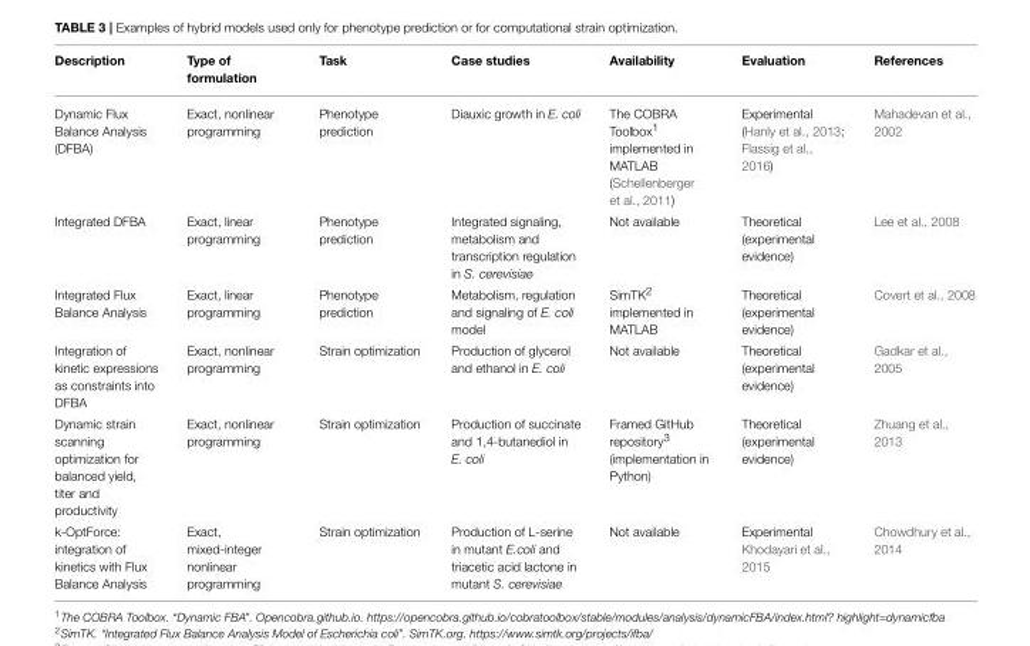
<table><thead><tr><td>Description</td><td>Type of formulation</td><td>Task</td><td>Case studies</td><td>Availability</td><td>Evaluation</td><td>References</td></tr></thead><tbody><tr><td>Dynamic Flux Balance Analysis (DFBA)</td><td>Exact, nonlinear programming</td><td>Phenotype prediction</td><td>Diauxic growth in E. coli</td><td>The COBRA Toolbox<sup>1</sup> implemented in MATLAB (Schellenberger et al., 2011)</td><td>Experimental (Hanly et al., 2013; Flassig et al., 2016)</td><td>Mahadevan et al., 2002</td></tr><tr><td>Integrated DFBA</td><td>Exact, linear programming</td><td>Phenotype prediction</td><td>Integrated signaling, metabolism and transcription regulation in S. cerevisiae</td><td>Not available</td><td>Theoretical (experimental evidence)</td><td>Lee et al., 2008</td></tr><tr><td>Integrated Flux Balance Analysis</td><td>Exact, linear programming</td><td>Phenotype prediction</td><td>Metabolism, regulation and signaling of E. coli model</td><td>SimTK<sup>2</sup> implemented in MATLAB</td><td>Theoretical (experimental evidence)</td><td>Covert et al., 2008</td></tr><tr><td>Integration of kinetic expressions as constraints into DFBA</td><td>Exact, nonlinear programming</td><td>Strain optimization</td><td>Production of glycerol and ethanol in E. coli</td><td>Not available</td><td>Theoretical (experimental evidence)</td><td>Gadkar et al., 2005</td></tr><tr><td>Dynamic strain scanning optimization for balanced yield, titer and productivity</td><td>Exact, nonlinear programming</td><td>Strain optimization</td><td>Production of succinate and 1,4-butanediol in E. coli</td><td>Framed GitHub repository<sup>3</sup> (implementation in Python)</td><td>Theoretical (experimental evidence)</td><td>Zhuang et al., 2013</td></tr><tr><td>k-OptForce: integration of kinetics with Flux Balance Analysis</td><td>Exact, mixed-integer nonlinear programming</td><td>Strain optimization</td><td>Production of L-serine in mutant E.coli and triacetic acid lactone in mutant S. cerevisiae</td><td>Not available</td><td>Experimental Khodayari et al., 2015</td><td>Chowdhury et al., 2014</td></tr></tbody></table>